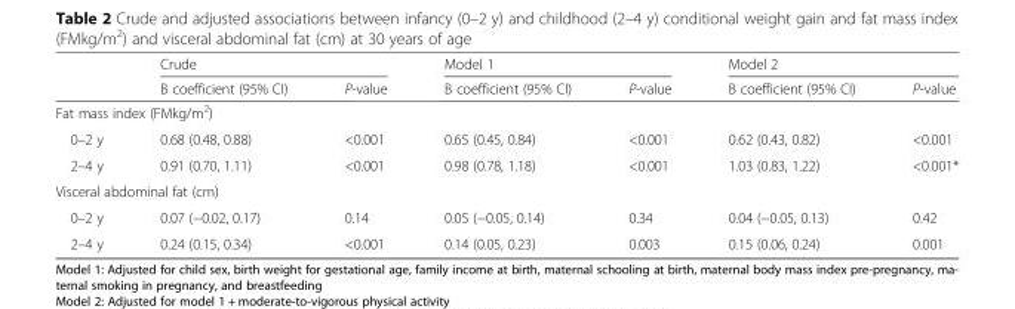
<table><thead><tr><td rowspan="2"></td><td colspan="2">Crude</td><td colspan="2">Model 1</td><td colspan="2">Model 2</td></tr><tr><td>Β coefficient (95% CI)</td><td>P-value</td><td>Β coefficient (95% CI)</td><td>P-value</td><td>Β coefficient (95% CI)</td><td>P-value</td></tr></thead><tbody><tr><td colspan="7">Fat mass index (FMkg/m<sup>2</sup>)</td></tr><tr><td>0–2 y</td><td>0.68 (0.48, 0.88)</td><td>&lt;0.001</td><td>0.65 (0.45, 0.84)</td><td>&lt;0.001</td><td>0.62 (0.43, 0.82)</td><td>&lt;0.001</td></tr><tr><td>2–4 y</td><td>0.91 (0.70, 1.11)</td><td>&lt;0.001</td><td>0.98 (0.78, 1.18)</td><td>&lt;0.001</td><td>1.03 (0.83, 1.22)</td><td>&lt;0.001*</td></tr><tr><td colspan="7">Visceral abdominal fat (cm)</td></tr><tr><td>0–2 y</td><td>0.07 (−0.02, 0.17)</td><td>0.14</td><td>0.05 (−0.05, 0.14)</td><td>0.34</td><td>0.04 (−0.05, 0.13)</td><td>0.42</td></tr><tr><td>2–4 y</td><td>0.24 (0.15, 0.34)</td><td>&lt;0.001</td><td>0.14 (0.05, 0.23)</td><td>0.003</td><td>0.15 (0.06, 0.24)</td><td>0.001</td></tr></tbody></table>